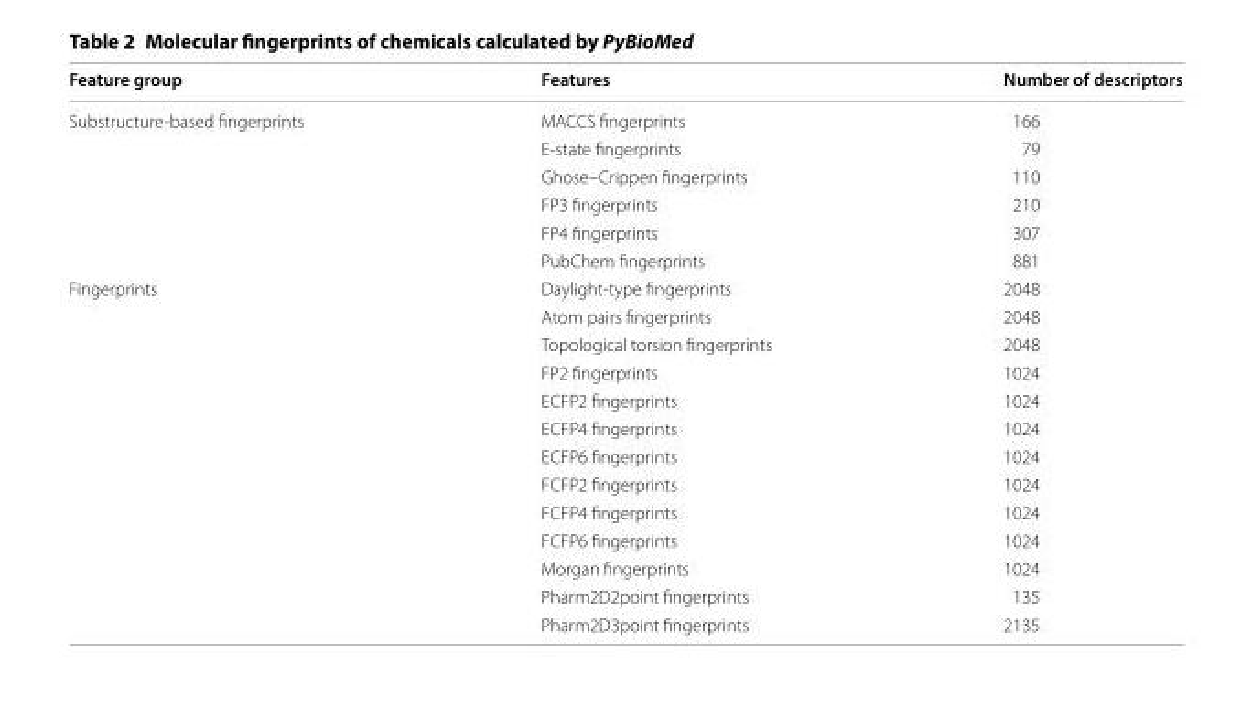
<table><thead><tr><td>Feature group</td><td>Features</td><td>Number of descriptors</td></tr></thead><tbody><tr><td rowspan="6">Substructure‑based fingerprints</td><td>MACCS fingerprints</td><td>166</td></tr><tr><td>E‑state fingerprints</td><td>79</td></tr><tr><td>Ghose–Crippen fingerprints</td><td>110</td></tr><tr><td>FP3 fingerprints</td><td>210</td></tr><tr><td>FP4 fingerprints</td><td>307</td></tr><tr><td>PubChem fingerprints</td><td>881</td></tr><tr><td rowspan="13">Fingerprints</td><td>Daylight‑type fingerprints</td><td>2048</td></tr><tr><td>Atom pairs fingerprints</td><td>2048</td></tr><tr><td>Topological torsion fingerprints</td><td>2048</td></tr><tr><td>FP2 fingerprints</td><td>1024</td></tr><tr><td>ECFP2 fingerprints</td><td>1024</td></tr><tr><td>ECFP4 fingerprints</td><td>1024</td></tr><tr><td>ECFP6 fingerprints</td><td>1024</td></tr><tr><td>FCFP2 fingerprints</td><td>1024</td></tr><tr><td>FCFP4 fingerprints</td><td>1024</td></tr><tr><td>FCFP6 fingerprints</td><td>1024</td></tr><tr><td>Morgan fingerprints</td><td>1024</td></tr><tr><td>Pharm2D2point fingerprints</td><td>135</td></tr><tr><td>Pharm2D3point fingerprints</td><td>2135</td></tr></tbody></table>